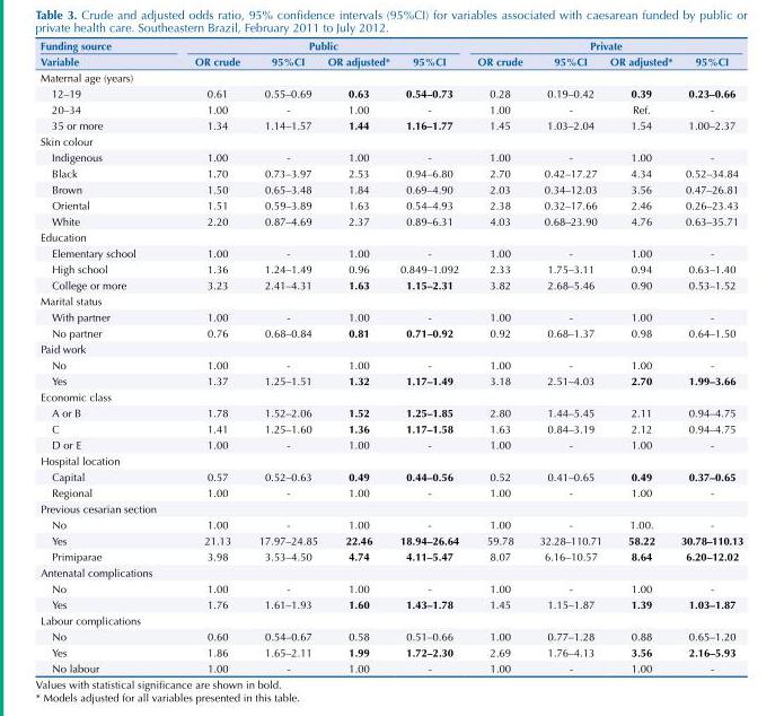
<table><thead><tr><td rowspan="2">Funding source Variable</td><td colspan="4">Public</td><td colspan="4">Private</td></tr><tr><td>OR crude</td><td>95%CI</td><td>OR adjusted*</td><td>95%CI</td><td>OR crude</td><td>95%CI</td><td>OR adjusted*</td><td>95%CI</td></tr></thead><tbody><tr><td colspan="9">Maternal age (years)</td></tr><tr><td>12–19</td><td>0.61</td><td>0.55–0.69</td><td>0.63</td><td>0.54–0.73</td><td>0.28</td><td>0.19–0.42</td><td>0.39</td><td>0.23–0.66</td></tr><tr><td>20–34</td><td>1.00</td><td>-</td><td>1.00</td><td>-</td><td>1.00</td><td>-</td><td>Ref.</td><td>-</td></tr><tr><td>35 or more</td><td>1.34</td><td>1.14–1.57</td><td>1.44</td><td>1.16–1.77</td><td>1.45</td><td>1.03–2.04</td><td>1.54</td><td>1.00–2.37</td></tr><tr><td colspan="9">Skin colour</td></tr><tr><td>Indigenous</td><td>1.00</td><td>-</td><td>1.00</td><td>-</td><td>1.00</td><td>-</td><td>1.00</td><td>-</td></tr><tr><td>Black</td><td>1.70</td><td>0.73–3.97</td><td>2.53</td><td>0.94–6.80</td><td>2.70</td><td>0.42–17.27</td><td>4.34</td><td>0.52–34.84</td></tr><tr><td>Brown</td><td>1.50</td><td>0.65–3.48</td><td>1.84</td><td>0.69–4.90</td><td>2.03</td><td>0.34–12.03</td><td>3.56</td><td>0.47–26.81</td></tr><tr><td>Oriental</td><td>1.51</td><td>0.59–3.89</td><td>1.63</td><td>0.54–4.93</td><td>2.38</td><td>0.32–17.66</td><td>2.46</td><td>0.26–23.43</td></tr><tr><td>White</td><td>2.20</td><td>0.87–4.69</td><td>2.37</td><td>0.89–6.31</td><td>4.03</td><td>0.68–23.90</td><td>4.76</td><td>0.63–35.71</td></tr><tr><td colspan="9">Education</td></tr><tr><td>Elementary school</td><td>1.00</td><td>-</td><td>1.00</td><td>-</td><td>1.00</td><td>-</td><td>1.00</td><td>-</td></tr><tr><td>High school</td><td>1.36</td><td>1.24–1.49</td><td>0.96</td><td>0.849–1.092</td><td>2.33</td><td>1.75–3.11</td><td>0.94</td><td>0.63–1.40</td></tr><tr><td>College or more</td><td>3.23</td><td>2.41–4.31</td><td>1.63</td><td>1.15–2.31</td><td>3.82</td><td>2.68–5.46</td><td>0.90</td><td>0.53–1.52</td></tr><tr><td colspan="9">Marital status</td></tr><tr><td>With partner</td><td>1.00</td><td>-</td><td>1.00</td><td>-</td><td>1.00</td><td>-</td><td>1.00</td><td>-</td></tr><tr><td>No partner</td><td>0.76</td><td>0.68–0.84</td><td>0.81</td><td>0.71–0.92</td><td>0.92</td><td>0.68–1.37</td><td>0.98</td><td>0.64–1.50</td></tr><tr><td colspan="9">Paid work</td></tr><tr><td>No</td><td>1.00</td><td>-</td><td>1.00</td><td>-</td><td>1.00</td><td>-</td><td>1.00</td><td>-</td></tr><tr><td>Yes</td><td>1.37</td><td>1.25–1.51</td><td>1.32</td><td>1.17–1.49</td><td>3.18</td><td>2.51–4.03</td><td>2.70</td><td>1.99–3.66</td></tr><tr><td colspan="9">Economic class</td></tr><tr><td>A or B</td><td>1.78</td><td>1.52–2.06</td><td>1.52</td><td>1.25–1.85</td><td>2.80</td><td>1.44–5.45</td><td>2.11</td><td>0.94–4.75</td></tr><tr><td>C</td><td>1.41</td><td>1.25–1.60</td><td>1.36</td><td>1.17–1.58</td><td>1.63</td><td>0.84–3.19</td><td>2.12</td><td>0.94–4.75</td></tr><tr><td>D or E</td><td>1.00</td><td>-</td><td>1.00</td><td>-</td><td>1.00</td><td>-</td><td>1.00</td><td>-</td></tr><tr><td colspan="9">Hospital location</td></tr><tr><td>Capital</td><td>0.57</td><td>0.52–0.63</td><td>0.49</td><td>0.44–0.56</td><td>0.52</td><td>0.41–0.65</td><td>0.49</td><td>0.37–0.65</td></tr><tr><td>Regional</td><td>1.00</td><td>-</td><td>1.00</td><td>-</td><td>1.00</td><td>-</td><td>1.00</td><td>-</td></tr><tr><td colspan="9">Previous cesarian section</td></tr><tr><td>No</td><td>1.00</td><td>-</td><td>1.00</td><td>-</td><td>1.00</td><td>-</td><td>1.00.</td><td>-</td></tr><tr><td>Yes</td><td>21.13</td><td>17.97–24.85</td><td>22.46</td><td>18.94–26.64</td><td>59.78</td><td>32.28–110.71</td><td>58.22</td><td>30.78–110.13</td></tr><tr><td>Primiparae</td><td>3.98</td><td>3.53–4.50</td><td>4.74</td><td>4.11–5.47</td><td>8.07</td><td>6.16–10.57</td><td>8.64</td><td>6.20–12.02</td></tr><tr><td colspan="9">Antenatal complications</td></tr><tr><td>No</td><td>1.00</td><td>-</td><td>1.00</td><td>-</td><td>1.00</td><td>-</td><td>1.00</td><td>-</td></tr><tr><td>Yes</td><td>1.76</td><td>1.61–1.93</td><td>1.60</td><td>1.43–1.78</td><td>1.45</td><td>1.15–1.87</td><td>1.39</td><td>1.03–1.87</td></tr><tr><td colspan="9">Labour complications</td></tr><tr><td>No</td><td>0.60</td><td>0.54–0.67</td><td>0.58</td><td>0.51–0.66</td><td>1.00</td><td>0.77–1.28</td><td>0.88</td><td>0.65–1.20</td></tr><tr><td>Yes</td><td>1.86</td><td>1.65–2.11</td><td>1.99</td><td>1.72–2.30</td><td>2.69</td><td>1.76–4.13</td><td>3.56</td><td>2.16–5.93</td></tr><tr><td>No labour</td><td>1.00</td><td>-</td><td>1.00</td><td>-</td><td>1.00</td><td>-</td><td>1.00</td><td>-</td></tr></tbody></table>